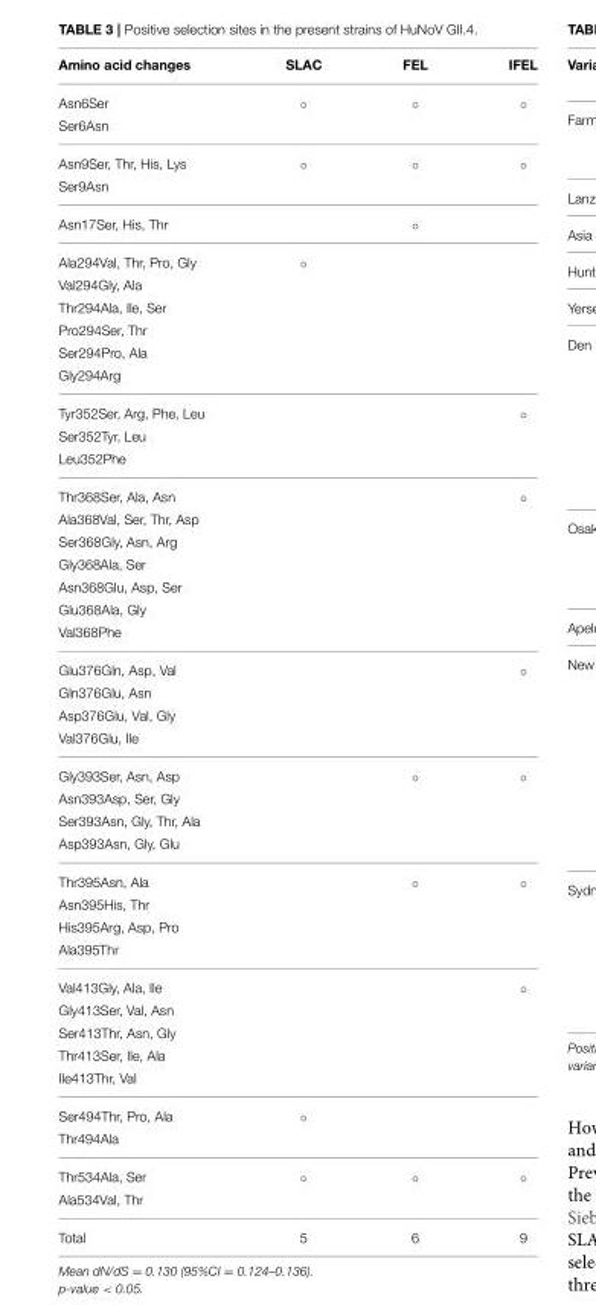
<table><thead><tr><td>Amino acid changes</td><td>SLAC</td><td>FEL</td><td>IFEL</td></tr></thead><tbody><tr><td>Asn6Ser</td><td>◦</td><td>◦</td><td>◦</td></tr><tr><td colspan="4">Ser6Asn</td></tr><tr><td>Asn9Ser, Thr, His, Lys</td><td>◦</td><td>◦</td><td>◦</td></tr><tr><td colspan="4">Ser9Asn</td></tr><tr><td>Asn17Ser, His, Thr</td><td></td><td>◦</td><td></td></tr><tr><td>Ala294Val, Thr, Pro, Gly</td><td>◦</td><td></td><td></td></tr><tr><td colspan="4">Val294Gly, Ala</td></tr><tr><td colspan="4">Thr294Ala, Ile, Ser</td></tr><tr><td colspan="4">Pro294Ser, Thr</td></tr><tr><td colspan="4">Ser294Pro, Ala</td></tr><tr><td colspan="4">Gly294Arg</td></tr><tr><td>Tyr352Ser, Arg, Phe, Leu</td><td></td><td></td><td>◦</td></tr><tr><td colspan="4">Ser352Tyr, Leu</td></tr><tr><td colspan="4">Leu352Phe</td></tr><tr><td>Thr368Ser, Ala, Asn</td><td></td><td></td><td>◦</td></tr><tr><td colspan="4">Ala368Val, Ser, Thr, Asp</td></tr><tr><td colspan="4">Ser368Gly, Asn, Arg</td></tr><tr><td colspan="4">Gly368Ala, Ser</td></tr><tr><td colspan="4">Asn368Glu, Asp, Ser</td></tr><tr><td colspan="4">Glu368Ala, Gly</td></tr><tr><td colspan="4">Val368Phe</td></tr><tr><td>Glu376Gln, Asp, Val</td><td></td><td></td><td>◦</td></tr><tr><td colspan="4">Gln376Glu, Asn</td></tr><tr><td colspan="4">Asp376Glu, Val, Gly</td></tr><tr><td colspan="4">Val376Glu, Ile</td></tr><tr><td>Gly393Ser, Asn, Asp</td><td></td><td>◦</td><td>◦</td></tr><tr><td colspan="4">Asn393Asp, Ser, Gly</td></tr><tr><td colspan="4">Ser393Asn, Gly, Thr, Ala</td></tr><tr><td colspan="4">Asp393Asn, Gly, Glu</td></tr><tr><td>Thr395Asn, Ala</td><td></td><td>◦</td><td>◦</td></tr><tr><td colspan="4">Asn395His, Thr</td></tr><tr><td colspan="4">His395Arg, Asp, Pro</td></tr><tr><td colspan="4">Ala395Thr</td></tr><tr><td>Val413Gly, Ala, Ile</td><td></td><td></td><td>◦</td></tr><tr><td colspan="4">Gly413Ser, Val, Asn</td></tr><tr><td colspan="4">Ser413Thr, Asn, Gly</td></tr><tr><td colspan="4">Thr413Ser, Ile, Ala</td></tr><tr><td colspan="4">Ile413Thr, Val</td></tr><tr><td>Ser494Thr, Pro, Ala</td><td>◦</td><td></td><td></td></tr><tr><td colspan="4">Thr494Ala</td></tr><tr><td>Thr534Ala, Ser</td><td>◦</td><td>◦</td><td>◦</td></tr><tr><td colspan="4">Ala534Val, Thr</td></tr><tr><td>Total</td><td>5</td><td>6</td><td>9</td></tr></tbody></table>